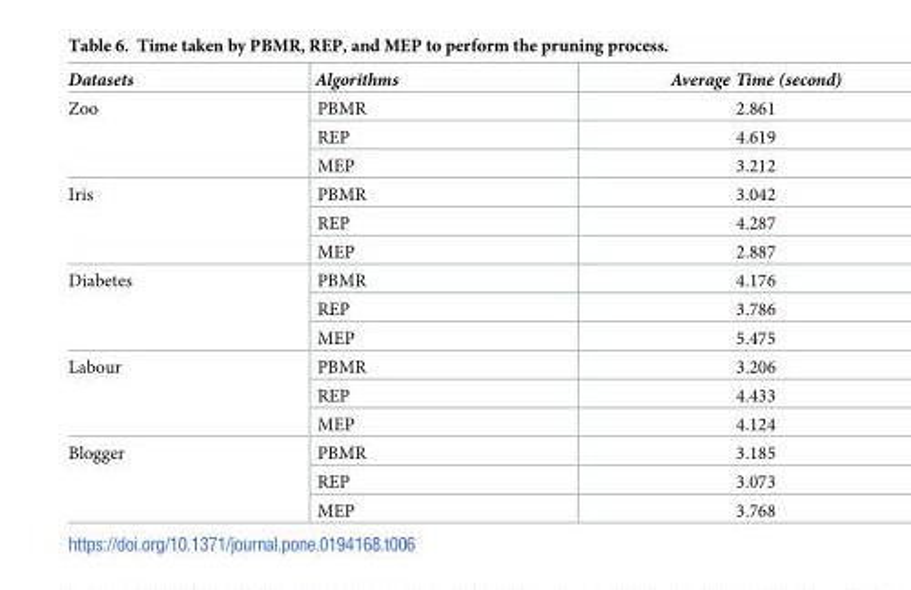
<table><thead><tr><td>Datasets</td><td>Algorithms</td><td>Average Time (second)</td></tr></thead><tbody><tr><td rowspan="3">Zoo</td><td>PBMR</td><td>2.861</td></tr><tr><td>REP</td><td>4.619</td></tr><tr><td>MEP</td><td>3.212</td></tr><tr><td rowspan="3">Iris</td><td>PBMR</td><td>3.042</td></tr><tr><td>REP</td><td>4.287</td></tr><tr><td>MEP</td><td>2.887</td></tr><tr><td rowspan="3">Diabetes</td><td>PBMR</td><td>4.176</td></tr><tr><td>REP</td><td>3.786</td></tr><tr><td>MEP</td><td>5.475</td></tr><tr><td rowspan="3">Labour</td><td>PBMR</td><td>3.206</td></tr><tr><td>REP</td><td>4.433</td></tr><tr><td>MEP</td><td>4.124</td></tr><tr><td rowspan="3">Blogger</td><td>PBMR</td><td>3.185</td></tr><tr><td>REP</td><td>3.073</td></tr><tr><td>MEP</td><td>3.768</td></tr></tbody></table>